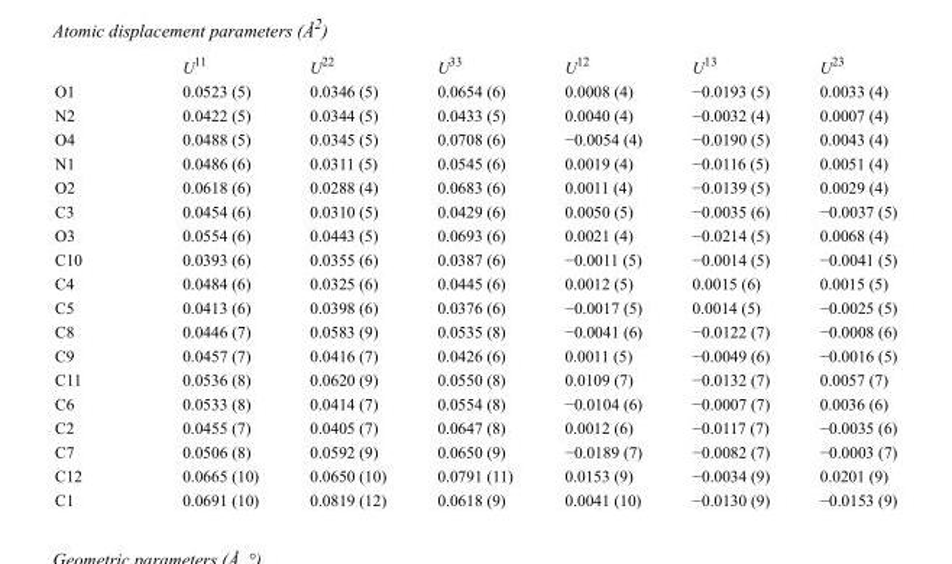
<table><thead><tr><td></td><td>U<sup>11</sup></td><td>U<sup>22</sup></td><td>U<sup>33</sup></td><td>U<sup>12</sup></td><td>U<sup>13</sup></td><td>U<sup>23</sup></td></tr></thead><tbody><tr><td>O1</td><td>0.0523 (5)</td><td>0.0346 (5)</td><td>0.0654 (6)</td><td>0.0008 (4)</td><td>−0.0193 (5)</td><td>0.0033 (4)</td></tr><tr><td>N2</td><td>0.0422 (5)</td><td>0.0344 (5)</td><td>0.0433 (5)</td><td>0.0040 (4)</td><td>−0.0032 (4)</td><td>0.0007 (4)</td></tr><tr><td>O4</td><td>0.0488 (5)</td><td>0.0345 (5)</td><td>0.0708 (6)</td><td>−0.0054 (4)</td><td>−0.0190 (5)</td><td>0.0043 (4)</td></tr><tr><td>N1</td><td>0.0486 (6)</td><td>0.0311 (5)</td><td>0.0545 (6)</td><td>0.0019 (4)</td><td>−0.0116 (5)</td><td>0.0051 (4)</td></tr><tr><td>O2</td><td>0.0618 (6)</td><td>0.0288 (4)</td><td>0.0683 (6)</td><td>0.0011 (4)</td><td>−0.0139 (5)</td><td>0.0029 (4)</td></tr><tr><td>C3</td><td>0.0454 (6)</td><td>0.0310 (5)</td><td>0.0429 (6)</td><td>0.0050 (5)</td><td>−0.0035 (6)</td><td>−0.0037 (5)</td></tr><tr><td>O3</td><td>0.0554 (6)</td><td>0.0443 (5)</td><td>0.0693 (6)</td><td>0.0021 (4)</td><td>−0.0214 (5)</td><td>0.0068 (4)</td></tr><tr><td>C10</td><td>0.0393 (6)</td><td>0.0355 (6)</td><td>0.0387 (6)</td><td>−0.0011 (5)</td><td>−0.0014 (5)</td><td>−0.0041 (5)</td></tr><tr><td>C4</td><td>0.0484 (6)</td><td>0.0325 (6)</td><td>0.0445 (6)</td><td>0.0012 (5)</td><td>0.0015 (6)</td><td>0.0015 (5)</td></tr><tr><td>C5</td><td>0.0413 (6)</td><td>0.0398 (6)</td><td>0.0376 (6)</td><td>−0.0017 (5)</td><td>0.0014 (5)</td><td>−0.0025 (5)</td></tr><tr><td>C8</td><td>0.0446 (7)</td><td>0.0583 (9)</td><td>0.0535 (8)</td><td>−0.0041 (6)</td><td>−0.0122 (7)</td><td>−0.0008 (6)</td></tr><tr><td>C9</td><td>0.0457 (7)</td><td>0.0416 (7)</td><td>0.0426 (6)</td><td>0.0011 (5)</td><td>−0.0049 (6)</td><td>−0.0016 (5)</td></tr><tr><td>C11</td><td>0.0536 (8)</td><td>0.0620 (9)</td><td>0.0550 (8)</td><td>0.0109 (7)</td><td>−0.0132 (7)</td><td>0.0057 (7)</td></tr><tr><td>C6</td><td>0.0533 (8)</td><td>0.0414 (7)</td><td>0.0554 (8)</td><td>−0.0104 (6)</td><td>−0.0007 (7)</td><td>0.0036 (6)</td></tr><tr><td>C2</td><td>0.0455 (7)</td><td>0.0405 (7)</td><td>0.0647 (8)</td><td>0.0012 (6)</td><td>−0.0117 (7)</td><td>−0.0035 (6)</td></tr><tr><td>C7</td><td>0.0506 (8)</td><td>0.0592 (9)</td><td>0.0650 (9)</td><td>−0.0189 (7)</td><td>−0.0082 (7)</td><td>−0.0003 (7)</td></tr><tr><td>C12</td><td>0.0665 (10)</td><td>0.0650 (10)</td><td>0.0791 (11)</td><td>0.0153 (9)</td><td>−0.0034 (9)</td><td>0.0201 (9)</td></tr><tr><td>C1</td><td>0.0691 (10)</td><td>0.0819 (12)</td><td>0.0618 (9)</td><td>0.0041 (10)</td><td>−0.0130 (9)</td><td>−0.0153 (9)</td></tr></tbody></table>